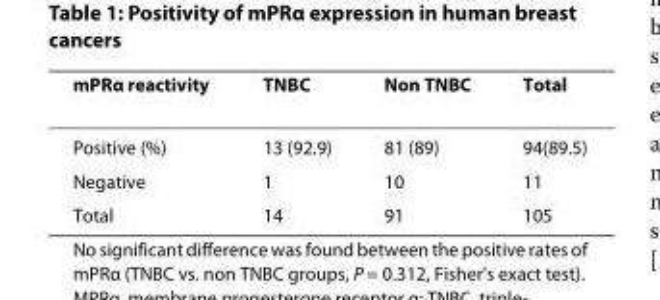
<table><thead><tr><td>mPRα reactivity</td><td>TNBC</td><td>Non TNBC</td><td>Total</td></tr></thead><tbody><tr><td>Positive (%)</td><td>13 (92.9)</td><td>81 (89)</td><td>94(89.5)</td></tr><tr><td>Negative</td><td>1</td><td>10</td><td>11</td></tr><tr><td>Total</td><td>14</td><td>91</td><td>105</td></tr></tbody></table>